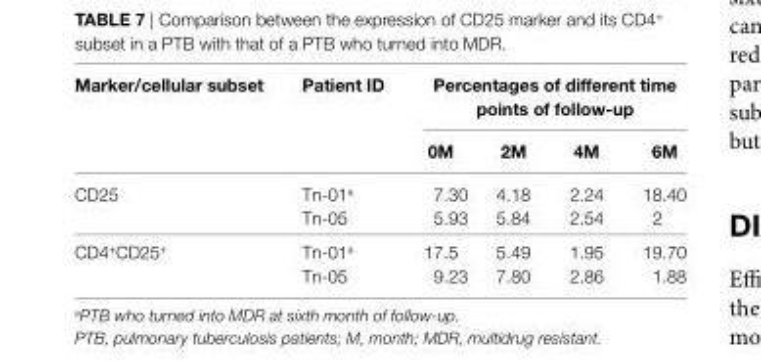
<table><thead><tr><td rowspan="2">Marker/cellular subset</td><td rowspan="2">Patient iD</td><td colspan="4">Percentages of different time points of follow-up</td></tr><tr><td>0M</td><td>2M</td><td>4M</td><td>6M</td></tr></thead><tbody><tr><td rowspan="2">CD25</td><td>Tn-01<sup>a</sup></td><td>7.30</td><td>4.18</td><td>2.24</td><td>18.40</td></tr><tr><td>Tn-05</td><td>5.93</td><td>5.84</td><td>2.54</td><td>2</td></tr><tr><td rowspan="2">CD4<sup>+</sup>CD25<sup>+</sup></td><td>Tn-01<sup>a</sup></td><td>17.5</td><td>5.49</td><td>1.95</td><td>19.70</td></tr><tr><td>Tn-05</td><td>9.23</td><td>7.80</td><td>2.86</td><td>1.88</td></tr></tbody></table>